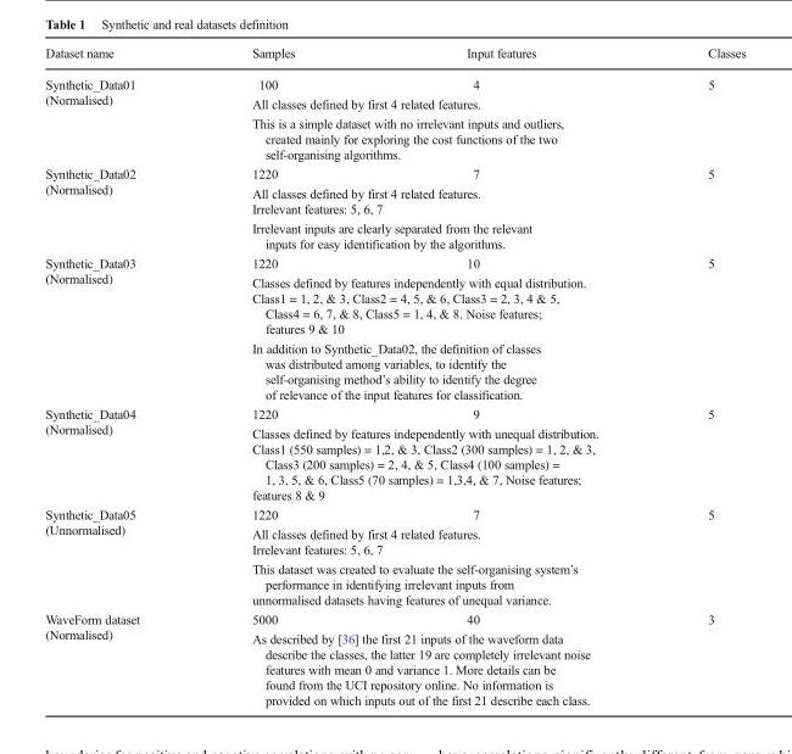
<table><thead><tr><td>Dataset name</td><td>Samples</td><td>Input features</td><td>Classes</td></tr></thead><tbody><tr><td rowspan="3">Synthetic_Data01 (Normalised)</td><td>100</td><td>4</td><td>5</td></tr><tr><td colspan="3">All classes defined by first 4 related features.</td></tr><tr><td colspan="3">This is a simple dataset with no irrelevant inputs and outliers, created mainly for exploring the cost functions of the two self-organising algorithms.</td></tr><tr><td rowspan="3">Synthetic_Data02 (Normalised)</td><td>1220</td><td>7</td><td>5</td></tr><tr><td colspan="3">All classes defined by first 4 related features. Irrelevant features: 5, 6, 7</td></tr><tr><td colspan="3">Irrelevant inputs are clearly separated from the relevant inputs for easy identification by the algorithms.</td></tr><tr><td rowspan="3">Synthetic_Data03 (Normalised)</td><td>1220</td><td>10</td><td>5</td></tr><tr><td colspan="3">Classes defined by features independently with equal distribution. Class1 = 1, 2, &amp; 3, Class2 = 4, 5, &amp; 6, Class3 = 2, 3, 4 &amp; 5, Class4 = 6, 7, &amp; 8, Class5 = 1, 4, &amp; 8. Noise features; features 9 &amp; 10</td></tr><tr><td colspan="3">In addition to Synthetic_Data02, the definition of classes was distributed among variables, to identify the self-organising method’s ability to identify the degree of relevance of the input features for classification.</td></tr><tr><td rowspan="2">Synthetic_Data04 (Normalised)</td><td>1220</td><td>9</td><td>5</td></tr><tr><td colspan="3">Classes defined by features independently with unequal distribution. Class1 (550 samples) = 1,2, &amp; 3, Class2 (300 samples) = 1, 2, &amp; 3, Class3 (200 samples) = 2, 4, &amp; 5, Class4 (100 samples) = 1, 3, 5, &amp; 6, Class5 (70 samples) = 1,3,4, &amp; 7, Noise features; features 8 &amp; 9</td></tr><tr><td rowspan="3">Synthetic_Data05 (Unnormalised)</td><td>1220</td><td>7</td><td>5</td></tr><tr><td colspan="3">All classes defined by first 4 related features. Irrelevant features: 5, 6, 7</td></tr><tr><td colspan="3">This dataset was created to evaluate the self-organising system’s performance in identifying irrelevant inputs from unnormalised datasets having features of unequal variance.</td></tr><tr><td rowspan="2">WaveForm dataset (Normalised)</td><td>5000</td><td>40</td><td>3</td></tr><tr><td colspan="3">As described by [36] the first 21 inputs of the waveform data describe the classes, the latter 19 are completely irrelevant noise features with mean 0 and variance 1. More details can be found from the UCI repository online. No information is provided on which inputs out of the first 21 describe each class.</td></tr></tbody></table>